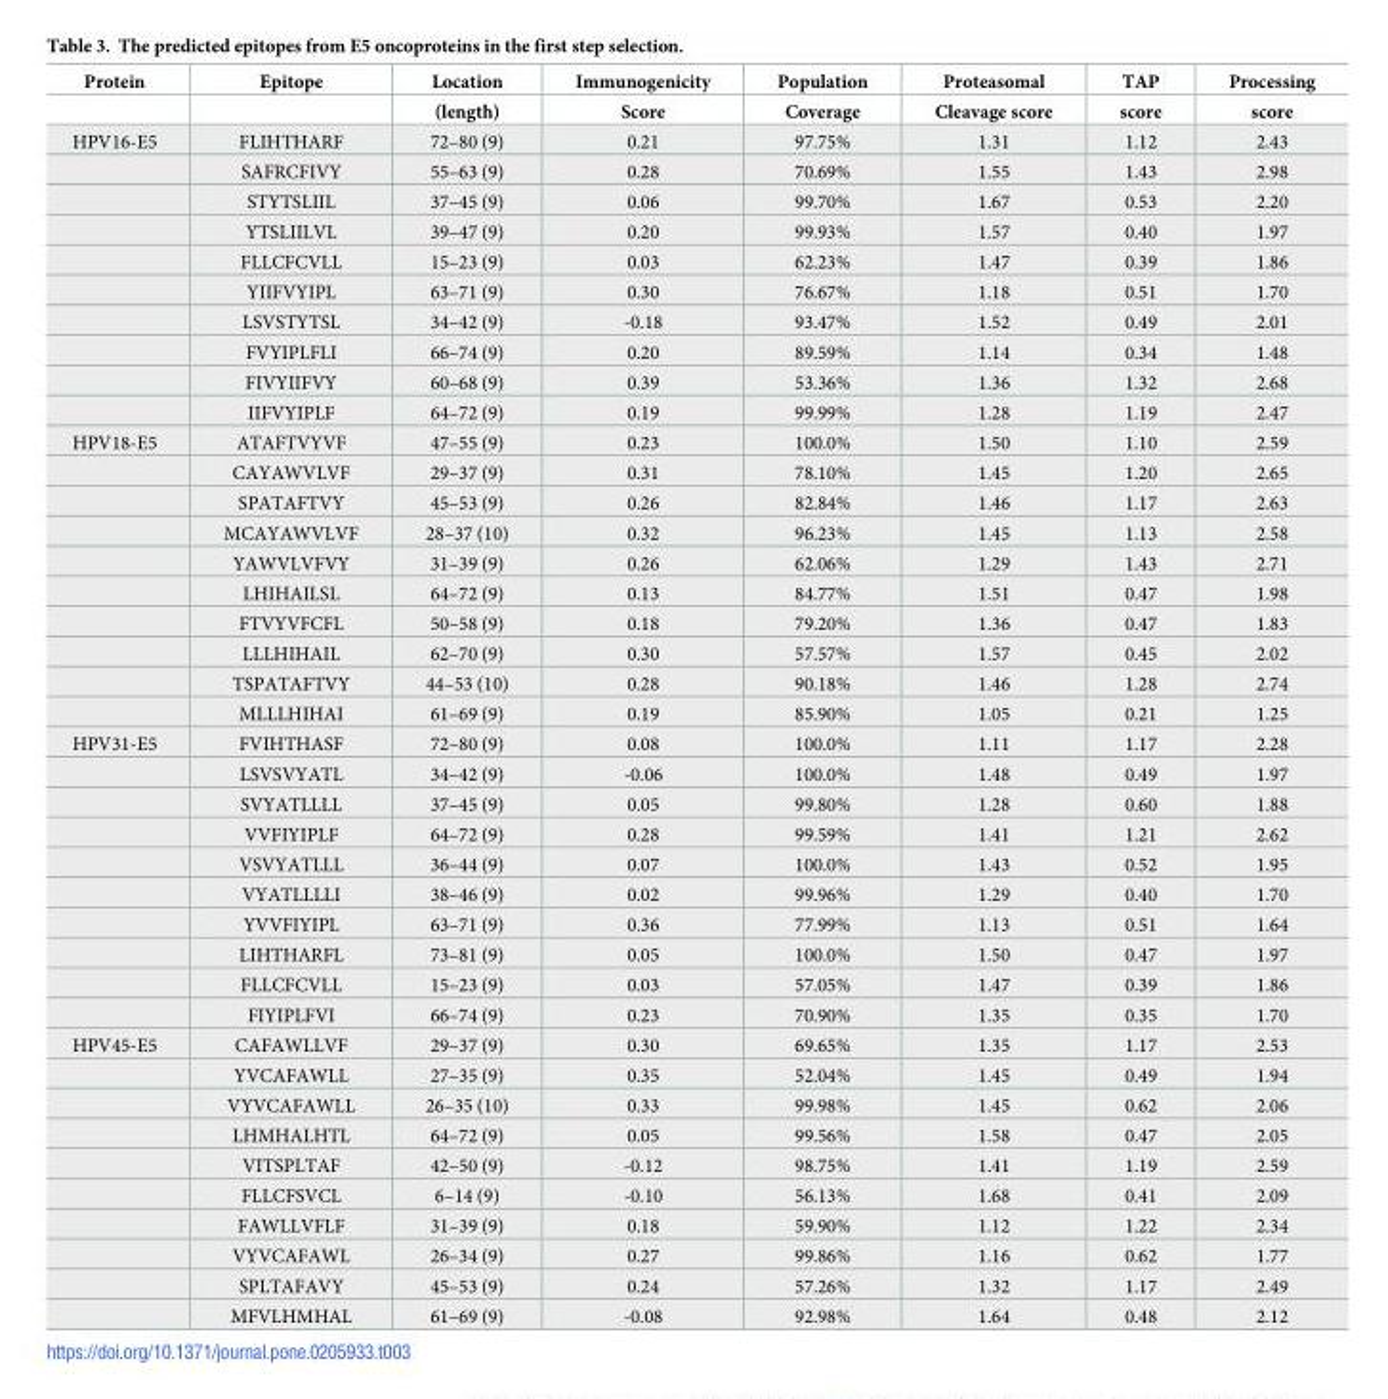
<table><thead><tr><td rowspan="2">Protein</td><td rowspan="2">Epitope</td><td rowspan="2">Location (length)</td><td rowspan="2">Immunogenicity Score</td><td rowspan="2">Population Coverage</td><td rowspan="2">Proteasomal Cleavage score</td><td rowspan="2">TAP score</td><td rowspan="2">Processing score</td></tr><tr></tr></thead><tbody><tr><td rowspan="10">HPV16-E5</td><td>FLIHTHARF</td><td>72–80 (9)</td><td>0.21</td><td>97.75%</td><td>1.31</td><td>1.12</td><td>2.43</td></tr><tr><td>SAFRCFIVY</td><td>55–63 (9)</td><td>0.28</td><td>70.69%</td><td>1.55</td><td>1.43</td><td>2.98</td></tr><tr><td>STYTSLIIL</td><td>37–45 (9)</td><td>0.06</td><td>99.70%</td><td>1.67</td><td>0.53</td><td>2.20</td></tr><tr><td>YTSLIILVL</td><td>39–47 (9)</td><td>0.20</td><td>99.93%</td><td>1.57</td><td>0.40</td><td>1.97</td></tr><tr><td>FLLCFCVLL</td><td>15–23 (9)</td><td>0.03</td><td>62.23%</td><td>1.47</td><td>0.39</td><td>1.86</td></tr><tr><td>YIIFVYIPL</td><td>63–71 (9)</td><td>0.30</td><td>76.67%</td><td>1.18</td><td>0.51</td><td>1.70</td></tr><tr><td>LSVSTYTSL</td><td>34–42 (9)</td><td>-0.18</td><td>93.47%</td><td>1.52</td><td>0.49</td><td>2.01</td></tr><tr><td>FVYIPLFLI</td><td>66–74 (9)</td><td>0.20</td><td>89.59%</td><td>1.14</td><td>0.34</td><td>1.48</td></tr><tr><td>FIVYIIFVY</td><td>60–68 (9)</td><td>0.39</td><td>53.36%</td><td>1.36</td><td>1.32</td><td>2.68</td></tr><tr><td>IIFVYIPLF</td><td>64–72 (9)</td><td>0.19</td><td>99.99%</td><td>1.28</td><td>1.19</td><td>2.47</td></tr><tr><td rowspan="10">HPV18-E5</td><td>ATAFTVYVF</td><td>47–55 (9)</td><td>0.23</td><td>100.0%</td><td>1.50</td><td>1.10</td><td>2.59</td></tr><tr><td>CAYAWVLVF</td><td>29–37 (9)</td><td>0.31</td><td>78.10%</td><td>1.45</td><td>1.20</td><td>2.65</td></tr><tr><td>SPATAFTVY</td><td>45–53 (9)</td><td>0.26</td><td>82.84%</td><td>1.46</td><td>1.17</td><td>2.63</td></tr><tr><td>MCAYAWVLVF</td><td>28–37 (10)</td><td>0.32</td><td>96.23%</td><td>1.45</td><td>1.13</td><td>2.58</td></tr><tr><td>YAWVLVFVY</td><td>31–39 (9)</td><td>0.26</td><td>62.06%</td><td>1.29</td><td>1.43</td><td>2.71</td></tr><tr><td>LHIHAILSL</td><td>64–72 (9)</td><td>0.13</td><td>84.77%</td><td>1.51</td><td>0.47</td><td>1.98</td></tr><tr><td>FTVYVFCFL</td><td>50–58 (9)</td><td>0.18</td><td>79.20%</td><td>1.36</td><td>0.47</td><td>1.83</td></tr><tr><td>LLLHIHAIL</td><td>62–70 (9)</td><td>0.30</td><td>57.57%</td><td>1.57</td><td>0.45</td><td>2.02</td></tr><tr><td>TSPATAFTVY</td><td>44–53 (10)</td><td>0.28</td><td>90.18%</td><td>1.46</td><td>1.28</td><td>2.74</td></tr><tr><td>MLLLHIHAI</td><td>61–69 (9)</td><td>0.19</td><td>85.90%</td><td>1.05</td><td>0.21</td><td>1.25</td></tr><tr><td rowspan="10">HPV31-E5</td><td>FVIHTHASF</td><td>72–80 (9)</td><td>0.08</td><td>100.0%</td><td>1.11</td><td>1.17</td><td>2.28</td></tr><tr><td>LSVSVYATL</td><td>34–42 (9)</td><td>-0.06</td><td>100.0%</td><td>1.48</td><td>0.49</td><td>1.97</td></tr><tr><td>SVYATLLLL</td><td>37–45 (9)</td><td>0.05</td><td>99.80%</td><td>1.28</td><td>0.60</td><td>1.88</td></tr><tr><td>VVFIYIPLF</td><td>64–72 (9)</td><td>0.28</td><td>99.59%</td><td>1.41</td><td>1.21</td><td>2.62</td></tr><tr><td>VSVYATLLL</td><td>36–44 (9)</td><td>0.07</td><td>100.0%</td><td>1.43</td><td>0.52</td><td>1.95</td></tr><tr><td>VYATLLLLI</td><td>38–46 (9)</td><td>0.02</td><td>99.96%</td><td>1.29</td><td>0.40</td><td>1.70</td></tr><tr><td>YVVFIYIPL</td><td>63–71 (9)</td><td>0.36</td><td>77.99%</td><td>1.13</td><td>0.51</td><td>1.64</td></tr><tr><td>LIHTHARFL</td><td>73–81 (9)</td><td>0.05</td><td>100.0%</td><td>1.50</td><td>0.47</td><td>1.97</td></tr><tr><td>FLLCFCVLL</td><td>15–23 (9)</td><td>0.03</td><td>57.05%</td><td>1.47</td><td>0.39</td><td>1.86</td></tr><tr><td>FIYIPLFVI</td><td>66–74 (9)</td><td>0.23</td><td>70.90%</td><td>1.35</td><td>0.35</td><td>1.70</td></tr><tr><td rowspan="10">HPV45-E5</td><td>CAFAWLLVF</td><td>29–37 (9)</td><td>0.30</td><td>69.65%</td><td>1.35</td><td>1.17</td><td>2.53</td></tr><tr><td>YVCAFAWLL</td><td>27–35 (9)</td><td>0.35</td><td>52.04%</td><td>1.45</td><td>0.49</td><td>1.94</td></tr><tr><td>VYVCAFAWLL</td><td>26–35 (10)</td><td>0.33</td><td>99.98%</td><td>1.45</td><td>0.62</td><td>2.06</td></tr><tr><td>LHMHALHTL</td><td>64–72 (9)</td><td>0.05</td><td>99.56%</td><td>1.58</td><td>0.47</td><td>2.05</td></tr><tr><td>VITSPLTAF</td><td>42–50 (9)</td><td>-0.12</td><td>98.75%</td><td>1.41</td><td>1.19</td><td>2.59</td></tr><tr><td>FLLCFSVCL</td><td>6–14 (9)</td><td>-0.10</td><td>56.13%</td><td>1.68</td><td>0.41</td><td>2.09</td></tr><tr><td>FAWLLVFLF</td><td>31–39 (9)</td><td>0.18</td><td>59.90%</td><td>1.12</td><td>1.22</td><td>2.34</td></tr><tr><td>VYVCAFAWL</td><td>26–34 (9)</td><td>0.27</td><td>99.86%</td><td>1.16</td><td>0.62</td><td>1.77</td></tr><tr><td>SPLTAFAVY</td><td>45–53 (9)</td><td>0.24</td><td>57.26%</td><td>1.32</td><td>1.17</td><td>2.49</td></tr><tr><td>MFVLHMHAL</td><td>61–69 (9)</td><td>-0.08</td><td>92.98%</td><td>1.64</td><td>0.48</td><td>2.12</td></tr></tbody></table>